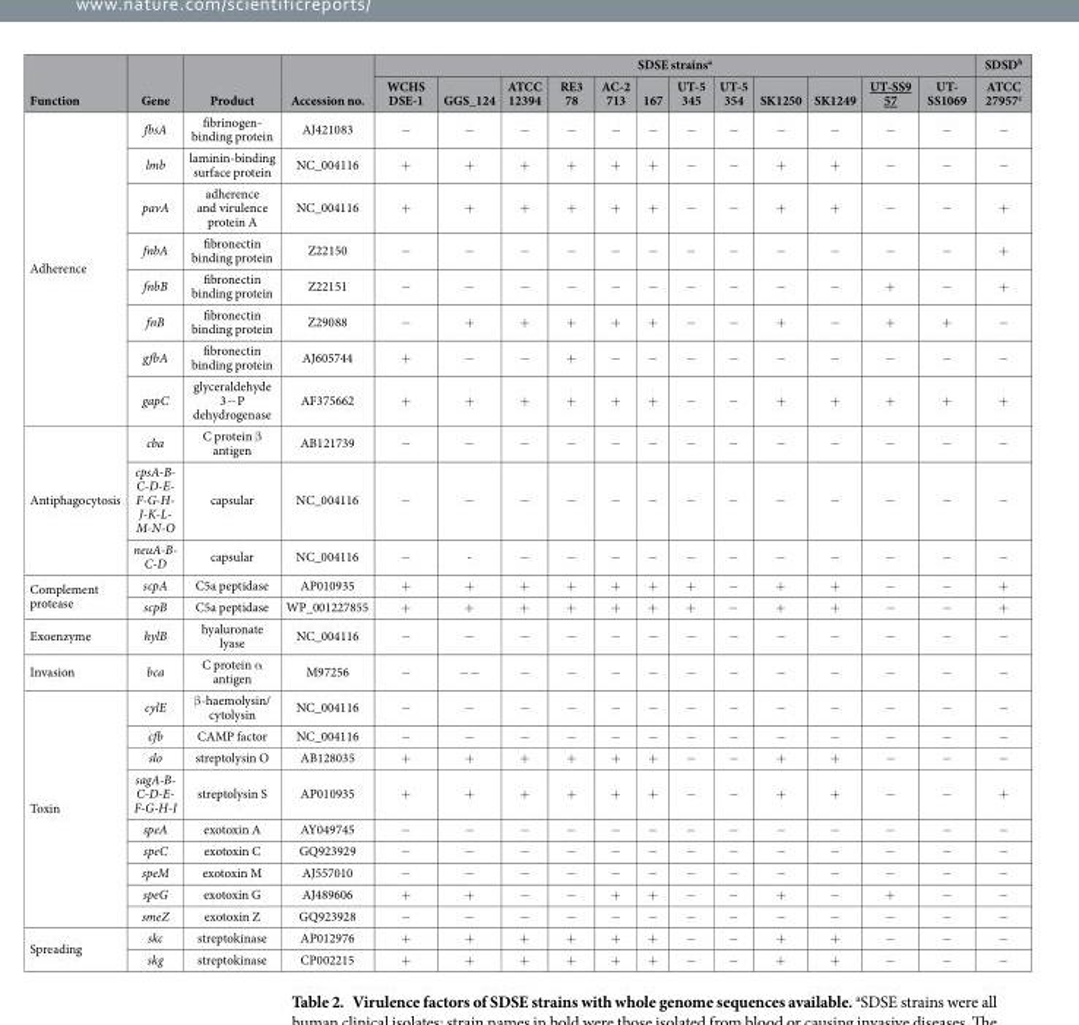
<table><thead><tr><td rowspan="2">Function</td><td rowspan="2">Gene</td><td rowspan="2">Product</td><td rowspan="2">Accession no.</td><td colspan="12">SDSE strains<sup>a</sup></td><td rowspan="2">SDSD<sup>b</sup> ATCC 27957<sup>c</sup></td></tr><tr><td>WCHS DSE-1</td><td>GGS_124</td><td>ATCC 12394</td><td>RE3 78</td><td>AC-2 713</td><td>167</td><td>UT-5 345</td><td>UT-5 354</td><td>SK1250</td><td>SK1249</td><td>UT-SS9 57</td><td>UT- SS1069</td></tr></thead><tbody><tr><td rowspan="8">Adherence</td><td>fbsA</td><td>fibrinogen- binding protein</td><td>AJ421083</td><td>−</td><td>−</td><td>−</td><td>−</td><td>−</td><td>−</td><td>−</td><td>−</td><td>−</td><td>−</td><td>−</td><td>−</td><td>−</td></tr><tr><td>lmb</td><td>laminin-binding surface protein</td><td>NC_004116</td><td>+</td><td>+</td><td>+</td><td>+</td><td>+</td><td>+</td><td>−</td><td>−</td><td>+</td><td>+</td><td>−</td><td>−</td><td>−</td></tr><tr><td>pavA</td><td>adherence and virulence protein A</td><td>NC_004116</td><td>+</td><td>+</td><td>+</td><td>+</td><td>+</td><td>+</td><td>−</td><td>−</td><td>+</td><td>+</td><td>−</td><td>−</td><td>+</td></tr><tr><td>fnbA</td><td>fibronectin binding protein</td><td>Z22150</td><td>−</td><td>−</td><td>−</td><td>−</td><td>−</td><td>−</td><td>−</td><td>−</td><td>−</td><td>−</td><td>−</td><td>−</td><td>+</td></tr><tr><td>fnbB</td><td>fibronectin binding protein</td><td>Z22151</td><td>−</td><td>−</td><td>−</td><td>−</td><td>−</td><td>−</td><td>−</td><td>−</td><td>−</td><td>−</td><td>+</td><td>−</td><td>+</td></tr><tr><td>fnB</td><td>fibronectin binding protein</td><td>Z29088</td><td>−</td><td>+</td><td>+</td><td>+</td><td>+</td><td>+</td><td>−</td><td>−</td><td>+</td><td>−</td><td>+</td><td>+</td><td>−</td></tr><tr><td>gfbA</td><td>fibronectin binding protein</td><td>AJ605744</td><td>+</td><td>−</td><td>−</td><td>+</td><td>−</td><td>−</td><td>−</td><td>−</td><td>−</td><td>−</td><td>−</td><td>−</td><td>−</td></tr><tr><td>gapC</td><td>glyceraldehyde 3− P dehydrogenase</td><td>AF375662</td><td>+</td><td>+</td><td>+</td><td>+</td><td>+</td><td>+</td><td>−</td><td>−</td><td>+</td><td>+</td><td>+</td><td>+</td><td>+</td></tr><tr><td rowspan="3">Antiphagocytosis</td><td>cba</td><td>C protein β antigen</td><td>AB121739</td><td>−</td><td>−</td><td>−</td><td>−</td><td>−</td><td>−</td><td>−</td><td>−</td><td>−</td><td>−</td><td>−</td><td>−</td><td>−</td></tr><tr><td>cpsA-B- C-D-E- F-G-H- J-K-L- M-N-O</td><td>capsular</td><td>NC_004116</td><td>−</td><td>−</td><td>−</td><td>−</td><td>−</td><td>−</td><td>−</td><td>−</td><td>−</td><td>−</td><td>−</td><td>−</td><td>−</td></tr><tr><td>neuA-B- C-D</td><td>capsular</td><td>NC_004116</td><td>−</td><td>-</td><td>−</td><td>−</td><td>−</td><td>−</td><td>−</td><td>−</td><td>−</td><td>−</td><td>−</td><td>−</td><td>−</td></tr><tr><td rowspan="2">Complement protease</td><td>scpA</td><td>C5a peptidase</td><td>AP010935</td><td>+</td><td>+</td><td>+</td><td>+</td><td>+</td><td>+</td><td>+</td><td>−</td><td>+</td><td>+</td><td>−</td><td>−</td><td>+</td></tr><tr><td>scpB</td><td>C5a peptidase</td><td>WP_001227855</td><td>+</td><td>+</td><td>+</td><td>+</td><td>+</td><td>+</td><td>+</td><td>−</td><td>+</td><td>+</td><td>−</td><td>−</td><td>+</td></tr><tr><td>Exoenzyme</td><td>hylB</td><td>hyaluronate lyase</td><td>NC_004116</td><td>−</td><td>−</td><td>−</td><td>−</td><td>−</td><td>−</td><td>−</td><td>−</td><td>−</td><td>−</td><td>−</td><td>−</td><td>−</td></tr><tr><td>Invasion</td><td>bca</td><td>C protein α antigen</td><td>M97256</td><td>−</td><td>− −</td><td>−</td><td>−</td><td>−</td><td>−</td><td>−</td><td>−</td><td>−</td><td>−</td><td>−</td><td>−</td><td>−</td></tr><tr><td rowspan="9">Toxin</td><td>cylE</td><td>β -haemolysin/ cytolysin</td><td>NC_004116</td><td>−</td><td>−</td><td>−</td><td>−</td><td>−</td><td>−</td><td>−</td><td>−</td><td>−</td><td>−</td><td>−</td><td>−</td><td>−</td></tr><tr><td>cfb</td><td>CAMP factor</td><td>NC_004116</td><td>−</td><td>−</td><td>−</td><td>−</td><td>−</td><td>−</td><td>−</td><td>−</td><td>−</td><td>−</td><td>−</td><td>−</td><td>−</td></tr><tr><td>slo</td><td>streptolysin O</td><td>AB128035</td><td>+</td><td>+</td><td>+</td><td>+</td><td>+</td><td>+</td><td>−</td><td>−</td><td>+</td><td>+</td><td>−</td><td>−</td><td>−</td></tr><tr><td>sagA-B- C-D-E- F-G-H-I</td><td>streptolysin S</td><td>AP010935</td><td>+</td><td>+</td><td>+</td><td>+</td><td>+</td><td>+</td><td>−</td><td>−</td><td>+</td><td>+</td><td>−</td><td>−</td><td>+</td></tr><tr><td>speA</td><td>exotoxin A</td><td>AY049745</td><td>−</td><td>−</td><td>−</td><td>−</td><td>−</td><td>−</td><td>−</td><td>−</td><td>−</td><td>−</td><td>−</td><td>−</td><td>−</td></tr><tr><td>speC</td><td>exotoxin C</td><td>GQ923929</td><td>−</td><td>−</td><td>−</td><td>−</td><td>−</td><td>−</td><td>−</td><td>−</td><td>−</td><td>−</td><td>−</td><td>−</td><td>−</td></tr><tr><td>speM</td><td>exotoxin M</td><td>AJ557010</td><td>−</td><td>−</td><td>−</td><td>−</td><td>−</td><td>−</td><td>−</td><td>−</td><td>−</td><td>−</td><td>−</td><td>−</td><td>−</td></tr><tr><td>speG</td><td>exotoxin G</td><td>AJ489606</td><td>+</td><td>+</td><td>−</td><td>−</td><td>+</td><td>+</td><td>−</td><td>−</td><td>+</td><td>−</td><td>+</td><td>−</td><td>−</td></tr><tr><td>smeZ</td><td>exotoxin Z</td><td>GQ923928</td><td>−</td><td>−</td><td>−</td><td>−</td><td>−</td><td>−</td><td>−</td><td>−</td><td>−</td><td>−</td><td>−</td><td>−</td><td>−</td></tr><tr><td rowspan="2">Spreading</td><td>skc</td><td>streptokinase</td><td>AP012976</td><td>+</td><td>+</td><td>+</td><td>+</td><td>+</td><td>+</td><td>−</td><td>−</td><td>+</td><td>+</td><td>−</td><td>−</td><td>−</td></tr><tr><td>skg</td><td>streptokinase</td><td>CP002215</td><td>+</td><td>+</td><td>+</td><td>+</td><td>+</td><td>+</td><td>−</td><td>−</td><td>+</td><td>+</td><td>−</td><td>−</td><td>−</td></tr></tbody></table>